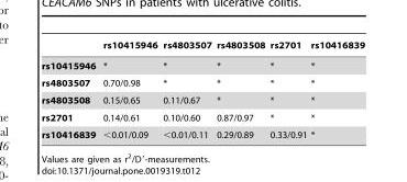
<table><thead><tr><td></td><td>rs10415946</td><td>rs4803507</td><td>rs4803508</td><td>rs2701</td><td>rs10416839</td></tr></thead><tbody><tr><td>rs10415946</td><td>*</td><td>*</td><td>*</td><td>*</td><td>*</td></tr><tr><td>rs4803507</td><td>0.70/0.98</td><td>*</td><td>*</td><td>*</td><td>*</td></tr><tr><td>rs4803508</td><td>0.15/0.65</td><td>0.11/0.67</td><td>*</td><td>*</td><td>*</td></tr><tr><td>rs2701</td><td>0.14/0.61</td><td>0.10/0.60</td><td>0.87/0.97</td><td>*</td><td>*</td></tr><tr><td>rs10416839</td><td>&lt;0.01/0.09</td><td>&lt;0.01/0.11</td><td>0.29/0.89</td><td>0.33/0.91</td><td>*</td></tr></tbody></table>